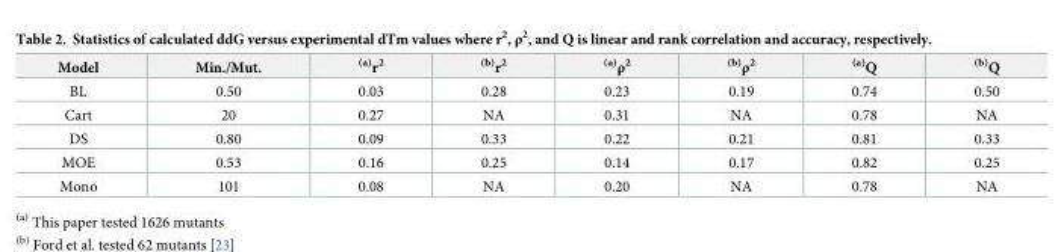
<table><thead><tr><td>Model</td><td>Min./Mut.</td><td><sup>(a)</sup>r<sup>2</sup></td><td><sup>(b)</sup>r<sup>2</sup></td><td><sup>(a)</sup>ρ<sup>2</sup></td><td><sup>(b)</sup>ρ<sup>2</sup></td><td><sup>(a)</sup>Q</td><td><sup>(b)</sup>Q</td></tr></thead><tbody><tr><td>BL</td><td>0.50</td><td>0.03</td><td>0.28</td><td>0.23</td><td>0.19</td><td>0.74</td><td>0.50</td></tr><tr><td>Cart</td><td>20</td><td>0.27</td><td>NA</td><td>0.31</td><td>NA</td><td>0.78</td><td>NA</td></tr><tr><td>DS</td><td>0.80</td><td>0.09</td><td>0.33</td><td>0.22</td><td>0.21</td><td>0.81</td><td>0.33</td></tr><tr><td>MOE</td><td>0.53</td><td>0.16</td><td>0.25</td><td>0.14</td><td>0.17</td><td>0.82</td><td>0.25</td></tr><tr><td>Mono</td><td>101</td><td>0.08</td><td>NA</td><td>0.20</td><td>NA</td><td>0.78</td><td>NA</td></tr></tbody></table>